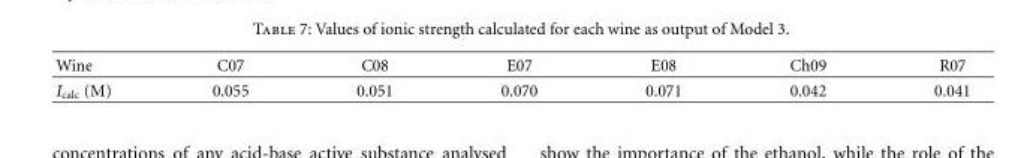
<table><thead><tr><td>Wine</td><td>C07</td><td>C08</td><td>E07</td><td>E08</td><td>Ch09</td><td>R07</td></tr></thead><tbody><tr><td>I<sub>calc</sub> (M)</td><td>0.055</td><td>0.051</td><td>0.070</td><td>0.071</td><td>0.042</td><td>0.041</td></tr></tbody></table>